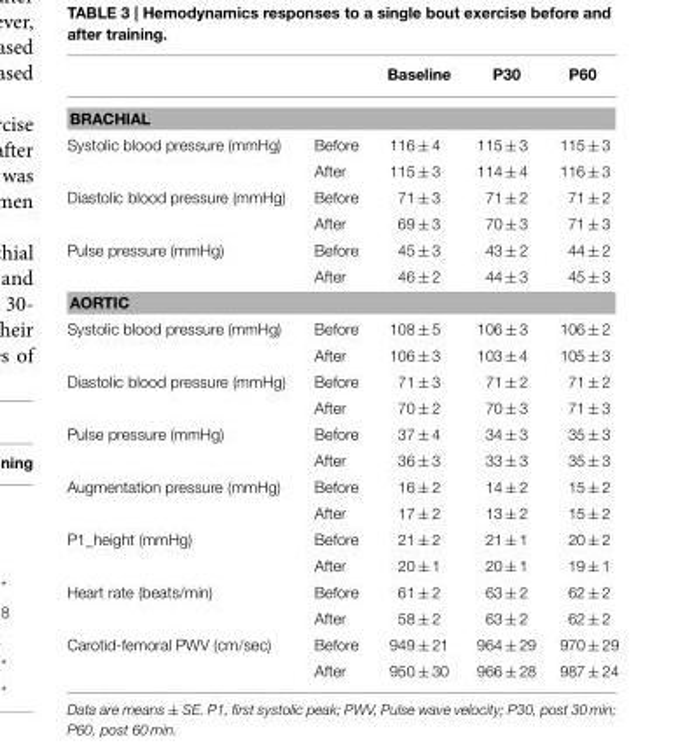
<table><thead><tr><td></td><td></td><td>Baseline</td><td>P30</td><td>P60</td></tr></thead><tbody><tr><td colspan="5">BRACHIAL</td></tr><tr><td rowspan="2">Systolic blood pressure (mmHg)</td><td>Before</td><td>116 ± 4</td><td>115 ± 3</td><td>115 ± 3</td></tr><tr><td>After</td><td>115 ± 3</td><td>114 ± 4</td><td>116 ± 3</td></tr><tr><td rowspan="2">Diastolic blood pressure (mmHg)</td><td>Before</td><td>71 ± 3</td><td>71 ± 2</td><td>71 ± 2</td></tr><tr><td>After</td><td>69 ± 3</td><td>70 ± 3</td><td>71 ± 3</td></tr><tr><td rowspan="2">Pulse pressure (mmHg)</td><td>Before</td><td>45 ± 3</td><td>43 ± 2</td><td>44 ± 2</td></tr><tr><td>After</td><td>46 ± 2</td><td>44 ± 3</td><td>45 ± 3</td></tr><tr><td colspan="5">AORTIC</td></tr><tr><td rowspan="2">Systolic blood pressure (mmHg)</td><td>Before</td><td>108 ± 5</td><td>106 ± 3</td><td>106 ± 2</td></tr><tr><td>After</td><td>106 ± 3</td><td>103 ± 4</td><td>105 ± 3</td></tr><tr><td rowspan="2">Diastolic blood pressure (mmHg)</td><td>Before</td><td>71 ± 3</td><td>71 ± 2</td><td>71 ± 2</td></tr><tr><td>After</td><td>70 ± 2</td><td>70 ± 3</td><td>71 ± 3</td></tr><tr><td rowspan="2">Pulse pressure (mmHg)</td><td>Before</td><td>37 ± 4</td><td>34 ± 3</td><td>35 ± 3</td></tr><tr><td>After</td><td>36 ± 3</td><td>33 ± 3</td><td>35 ± 3</td></tr><tr><td rowspan="2">Augmentation pressure (mmHg)</td><td>Before</td><td>16 ± 2</td><td>14 ± 2</td><td>15 ± 2</td></tr><tr><td>After</td><td>17 ± 2</td><td>13 ± 2</td><td>15 ± 2</td></tr><tr><td rowspan="2">P1_height (mmHg)</td><td>Before</td><td>21 ± 2</td><td>21 ± 1</td><td>20 ± 2</td></tr><tr><td>After</td><td>20 ± 1</td><td>20 ± 1</td><td>19 ± 1</td></tr><tr><td rowspan="2">Heart rate (beats/min)</td><td>Before</td><td>61 ± 2</td><td>63 ± 2</td><td>62 ± 2</td></tr><tr><td>After</td><td>58 ± 2</td><td>63 ± 2</td><td>62 ± 2</td></tr><tr><td rowspan="2">Carotid-femoral PWV (cm/sec)</td><td>Before</td><td>949 ± 21</td><td>964 ± 29</td><td>970 ±</td></tr><tr><td>After</td><td>950 ± 30</td><td>966 ± 28</td><td>987 ±</td></tr></tbody></table>